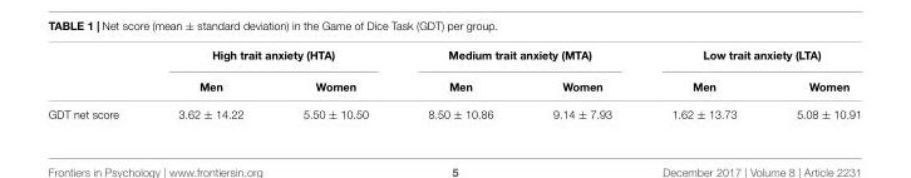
<table><thead><tr><td rowspan="2"></td><td colspan="2">High trait anxiety (HTA)</td><td colspan="2">Medium trait anxiety (MTA)</td><td colspan="2">Low trait anxiety (LTA)</td></tr><tr><td>Men</td><td>Women</td><td>Men</td><td>Women</td><td>Men</td><td>Women</td></tr></thead><tbody><tr><td>GDT net score</td><td>3.62 ± 14.22</td><td>5.50 ± 10.50</td><td>8.50 ± 10.86</td><td>9.14 ± 7.93</td><td>1.62 ± 13.73</td><td>5.08 ± 10.91</td></tr></tbody></table>